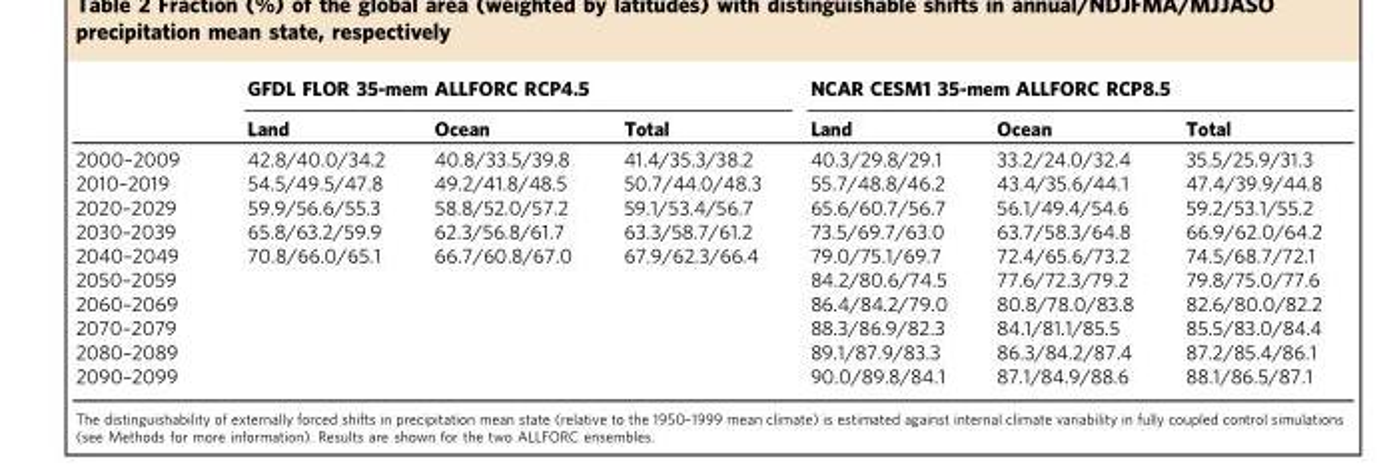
<table><thead><tr><td rowspan="2"></td><td colspan="3">GFDL FLOR 35-mem ALLFORC RCP4.5</td><td colspan="3">NCAR CESM1 35-mem ALLFORC RCP8.5</td></tr><tr><td>Land</td><td>Ocean</td><td>Total</td><td>Land</td><td>Ocean</td><td>Total</td></tr></thead><tbody><tr><td>2000–2009</td><td>42.8/40.0/34.2</td><td>40.8/33.5/39.8</td><td>41.4/35.3/38.2</td><td>40.3/29.8/29.1</td><td>33.2/24.0/32.4</td><td>35.5/25.9/31.3</td></tr><tr><td>2010–2019</td><td>54.5/49.5/47.8</td><td>49.2/41.8/48.5</td><td>50.7/44.0/48.3</td><td>55.7/48.8/46.2</td><td>43.4/35.6/44.1</td><td>47.4/39.9/44.8</td></tr><tr><td>2020–2029</td><td>59.9/56.6/55.3</td><td>58.8/52.0/57.2</td><td>59.1/53.4/56.7</td><td>65.6/60.7/56.7</td><td>56.1/49.4/54.6</td><td>59.2/53.1/55.2</td></tr><tr><td>2030–2039</td><td>65.8/63.2/59.9</td><td>62.3/56.8/61.7</td><td>63.3/58.7/61.2</td><td>73.5/69.7/63.0</td><td>63.7/58.3/64.8</td><td>66.9/62.0/64.2</td></tr><tr><td>2040–2049</td><td>70.8/66.0/65.1</td><td>66.7/60.8/67.0</td><td>67.9/62.3/66.4</td><td>79.0/75.1/69.7</td><td>72.4/65.6/73.2</td><td>74.5/68.7/72.1</td></tr><tr><td>2050–2059</td><td></td><td></td><td></td><td>84.2/80.6/74.5</td><td>77.6/72.3/79.2</td><td>79.8/75.0/77.6</td></tr><tr><td>2060–2069</td><td></td><td></td><td></td><td>86.4/84.2/79.0</td><td>80.8/78.0/83.8</td><td>82.6/80.0/82.2</td></tr><tr><td>2070–2079</td><td></td><td></td><td></td><td>88.3/86.9/82.3</td><td>84.1/81.1/85.5</td><td>85.5/83.0/84.4</td></tr><tr><td>2080–2089</td><td></td><td></td><td></td><td>89.1/87.9/83.3</td><td>86.3/84.2/87.4</td><td>87.2/85.4/86.1</td></tr><tr><td>2090–2099</td><td></td><td></td><td></td><td>90.0/89.8/84.1</td><td>87.1/84.9/88.6</td><td>88.1/86.5/87.1</td></tr></tbody></table>